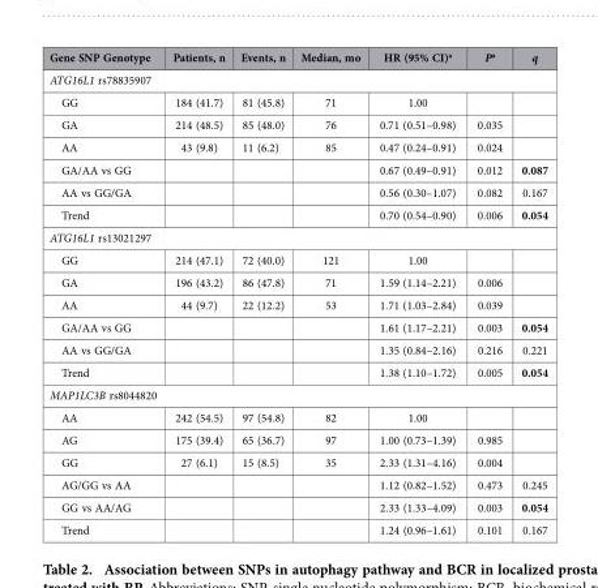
<table><thead><tr><td>Gene SNP Genotype</td><td>Patients, n</td><td>Events, n</td><td>Median, mo</td><td>HR (95% CI)<sup>a</sup></td><td>P<sup>a</sup></td><td>q</td></tr></thead><tbody><tr><td colspan="7">ATG16L1 rs78835907</td></tr><tr><td>GG</td><td>184 (41.7)</td><td>81 (45.8)</td><td>71</td><td>1.00</td><td></td><td></td></tr><tr><td>GA</td><td>214 (48.5)</td><td>85 (48.0)</td><td>76</td><td>0.71 (0.51–0.98)</td><td>0.035</td><td></td></tr><tr><td>AA</td><td>43 (9.8)</td><td>11 (6.2)</td><td>85</td><td>0.47 (0.24–0.91)</td><td>0.024</td><td></td></tr><tr><td>GA/AA vs GG</td><td></td><td></td><td></td><td>0.67 (0.49–0.91)</td><td>0.012</td><td>0.087</td></tr><tr><td>AA vs GG/GA</td><td></td><td></td><td></td><td>0.56 (0.30–1.07)</td><td>0.082</td><td>0.167</td></tr><tr><td>Trend</td><td></td><td></td><td></td><td>0.70 (0.54–0.90)</td><td>0.006</td><td>0.054</td></tr><tr><td colspan="7">ATG16L1 rs13021297</td></tr><tr><td>GG</td><td>214 (47.1)</td><td>72 (40.0)</td><td>121</td><td>1.00</td><td></td><td></td></tr><tr><td>GA</td><td>196 (43.2)</td><td>86 (47.8)</td><td>71</td><td>1.59 (1.14–2.21)</td><td>0.006</td><td></td></tr><tr><td>AA</td><td>44 (9.7)</td><td>22 (12.2)</td><td>53</td><td>1.71 (1.03–2.84)</td><td>0.039</td><td></td></tr><tr><td>GA/AA vs GG</td><td></td><td></td><td></td><td>1.61 (1.17–2.21)</td><td>0.003</td><td>0.054</td></tr><tr><td>AA vs GG/GA</td><td></td><td></td><td></td><td>1.35 (0.84–2.16)</td><td>0.216</td><td>0.221</td></tr><tr><td>Trend</td><td></td><td></td><td></td><td>1.38 (1.10–1.72)</td><td>0.005</td><td>0.054</td></tr><tr><td colspan="7">MAP1LC3B rs8044820</td></tr><tr><td>AA</td><td>242 (54.5)</td><td>97 (54.8)</td><td>82</td><td>1.00</td><td></td><td></td></tr><tr><td>AG</td><td>175 (39.4)</td><td>65 (36.7)</td><td>97</td><td>1.00 (0.73–1.39)</td><td>0.985</td><td></td></tr><tr><td>GG</td><td>27 (6.1)</td><td>15 (8.5)</td><td>35</td><td>2.33 (1.31–4.16)</td><td>0.004</td><td></td></tr><tr><td>AG/GG vs AA</td><td></td><td></td><td></td><td>1.12 (0.82–1.52)</td><td>0.473</td><td>0.245</td></tr><tr><td>GG vs AA/AG</td><td></td><td></td><td></td><td>2.33 (1.33–4.09)</td><td>0.003</td><td>0.054</td></tr><tr><td>Trend</td><td></td><td></td><td></td><td>1.24 (0.96–1.61)</td><td>0.101</td><td>0.167</td></tr></tbody></table>